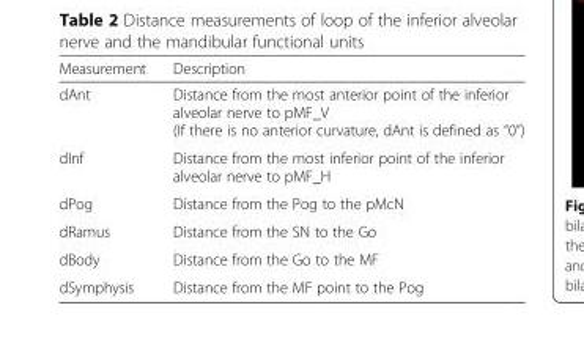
<table><thead><tr><td>Measurement</td><td>Description</td></tr></thead><tbody><tr><td>dAnt</td><td>Distance from the most anterior point of the inferior alveolar nerve to pMF_V (If there is no anterior curvature, dAnt is defined as “0”)</td></tr><tr><td>dInf</td><td>Distance from the most inferior point of the inferior alveolar nerve to pMF_H</td></tr><tr><td>dPog</td><td>Distance from the Pog to the pMcN</td></tr><tr><td>dRamus</td><td>Distance from the SN to the Go</td></tr><tr><td>dBody</td><td>Distance from the Go to the MF</td></tr><tr><td>dSymphysis</td><td>Distance from the MF point to the Pog</td></tr></tbody></table>